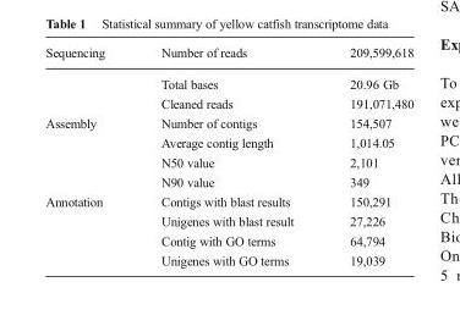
<table><thead><tr><td>Sequencing</td><td>Number of reads</td><td>209,599,618</td></tr></thead><tbody><tr><td rowspan="2"></td><td>Total bases</td><td>20.96 Gb</td></tr><tr><td>Cleaned reads</td><td>191,071,480</td></tr><tr><td rowspan="4">Assembly</td><td>Number of contigs</td><td>154,507</td></tr><tr><td>Average contig length</td><td>1,014.05</td></tr><tr><td>N50 value</td><td>2,101</td></tr><tr><td>N90 value</td><td>349</td></tr><tr><td rowspan="4">Annotation</td><td>Contigs with blast results</td><td>150,291</td></tr><tr><td>Unigenes with blast result</td><td>27,226</td></tr><tr><td>Contig with GO terms</td><td>64,794</td></tr><tr><td>Unigenes with GO terms</td><td>19,039</td></tr></tbody></table>